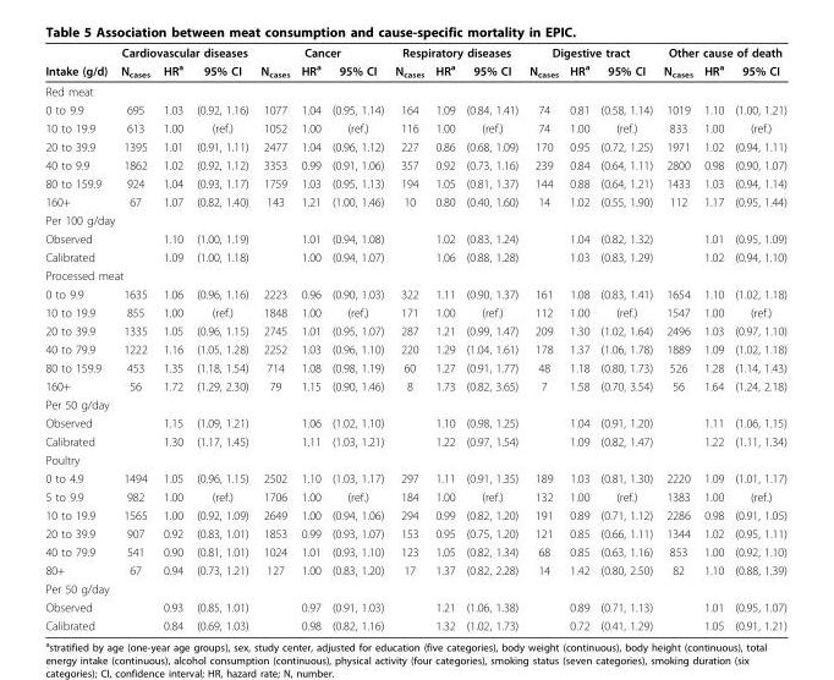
<table><thead><tr><td rowspan="2">Intake (g/d)</td><td colspan="3">Cardiovascular diseases</td><td colspan="3">Cancer</td><td colspan="3">Respiratory diseases</td><td colspan="3">Digestive tract</td><td colspan="3">Other cause of death</td></tr><tr><td>N<sub>cases</sub></td><td>HR<sup>a</sup></td><td>95% CI</td><td>N<sub>cases</sub></td><td>HR<sup>a</sup></td><td>95% CI</td><td>N<sub>cases</sub></td><td>HR<sup>a</sup></td><td>95% CI</td><td>N<sub>cases</sub></td><td>HR<sup>a</sup></td><td>95% CI</td><td>N<sub>cases</sub></td><td>HR<sup>a</sup></td><td>95% CI</td></tr></thead><tbody><tr><td colspan="16">Red meat</td></tr><tr><td>0 to 9.9</td><td>695</td><td>1.03</td><td>(0.92, 1.16)</td><td>1077</td><td>1.04</td><td>(0.95, 1.14)</td><td>164</td><td>1.09</td><td>(0.84, 1.41)</td><td>74</td><td>0.81</td><td>(0.58, 1.14)</td><td>1019</td><td>1.10</td><td>(1.00, 1.21)</td></tr><tr><td>10 to 19.9</td><td>613</td><td>1.00</td><td>(ref.)</td><td>1052</td><td>1.00</td><td>(ref.)</td><td>116</td><td>1.00</td><td>(ref.)</td><td>74</td><td>1.00</td><td>(ref.)</td><td>833</td><td>1.00</td><td>(ref.)</td></tr><tr><td>20 to 39.9</td><td>1395</td><td>1.01</td><td>(0.91, 1.11)</td><td>2477</td><td>1.04</td><td>(0.96, 1.12)</td><td>227</td><td>0.86</td><td>(0.68, 1.09)</td><td>170</td><td>0.95</td><td>(0.72, 1.25)</td><td>1971</td><td>1.02</td><td>(0.94, 1.11)</td></tr><tr><td>40 to 9.9</td><td>1862</td><td>1.02</td><td>(0.92, 1.12)</td><td>3353</td><td>0.99</td><td>(0.91, 1.06)</td><td>357</td><td>0.92</td><td>(0.73, 1.16)</td><td>239</td><td>0.84</td><td>(0.64, 1.11)</td><td>2800</td><td>0.98</td><td>(0.90, 1.07)</td></tr><tr><td>80 to 159.9</td><td>924</td><td>1.04</td><td>(0.93, 1.17)</td><td>1759</td><td>1.03</td><td>(0.95, 1.13)</td><td>194</td><td>1.05</td><td>(0.81, 1.37)</td><td>144</td><td>0.88</td><td>(0.64, 1.21)</td><td>1433</td><td>1.03</td><td>(0.94, 1.14)</td></tr><tr><td>160+</td><td>67</td><td>1.07</td><td>(0.82, 1.40)</td><td>143</td><td>1.21</td><td>(1.00, 1.46)</td><td>10</td><td>0.80</td><td>(0.40, 1.60)</td><td>14</td><td>1.02</td><td>(0.55, 1.90)</td><td>112</td><td>1.17</td><td>(0.95, 1.44)</td></tr><tr><td colspan="16">Per 100 g/day</td></tr><tr><td>Observed</td><td></td><td>1.10</td><td>(1.00, 1.19)</td><td></td><td>1.01</td><td>(0.94, 1.08)</td><td></td><td>1.02</td><td>(0.83, 1.24)</td><td></td><td>1.04</td><td>(0.82, 1.32)</td><td></td><td>1.01</td><td>(0.95, 1.09)</td></tr><tr><td>Calibrated</td><td></td><td>1.09</td><td>(1.00, 1.18)</td><td></td><td>1.00</td><td>(0.94, 1.07)</td><td></td><td>1.06</td><td>(0.88, 1.28)</td><td></td><td>1.03</td><td>(0.83, 1.29)</td><td></td><td>1.02</td><td>(0.94, 1.10)</td></tr><tr><td colspan="16">Processed meat</td></tr><tr><td>0 to 9.9</td><td>1635</td><td>1.06</td><td>(0.96, 1.16)</td><td>2223</td><td>0.96</td><td>(0.90, 1.03)</td><td>322</td><td>1.11</td><td>(0.90, 1.37)</td><td>161</td><td>1.08</td><td>(0.83, 1.41)</td><td>1654</td><td>1.10</td><td>(1.02, 1.18)</td></tr><tr><td>10 to 19.9</td><td>855</td><td>1.00</td><td>(ref.)</td><td>1848</td><td>1.00</td><td>(ref.)</td><td>171</td><td>1.00</td><td>(ref.)</td><td>112</td><td>1.00</td><td>(ref.)</td><td>1547</td><td>1.00</td><td>(ref.)</td></tr><tr><td>20 to 39.9</td><td>1335</td><td>1.05</td><td>(0.96, 1.15)</td><td>2745</td><td>1.01</td><td>(0.95, 1.07)</td><td>287</td><td>1.21</td><td>(0.99, 1.47)</td><td>209</td><td>1.30</td><td>(1.02, 1.64)</td><td>2496</td><td>1.03</td><td>(0.97, 1.10)</td></tr><tr><td>40 to 79.9</td><td>1222</td><td>1.16</td><td>(1.05, 1.28)</td><td>2252</td><td>1.03</td><td>(0.96, 1.10)</td><td>220</td><td>1.29</td><td>(1.04, 1.61)</td><td>178</td><td>1.37</td><td>(1.06, 1.78)</td><td>1889</td><td>1.09</td><td>(1.02, 1.18)</td></tr><tr><td>80 to 159.9</td><td>453</td><td>1.35</td><td>(1.18, 1.54)</td><td>714</td><td>1.08</td><td>(0.98, 1.19)</td><td>60</td><td>1.27</td><td>(0.91, 1.77)</td><td>48</td><td>1.18</td><td>(0.80, 1.73)</td><td>526</td><td>1.28</td><td>(1.14, 1.43)</td></tr><tr><td>160+</td><td>56</td><td>1.72</td><td>(1.29, 2.30)</td><td>79</td><td>1.15</td><td>(0.90, 1.46)</td><td>8</td><td>1.73</td><td>(0.82, 3.65)</td><td>7</td><td>1.58</td><td>(0.70, 3.54)</td><td>56</td><td>1.64</td><td>(1.24, 2.18)</td></tr><tr><td colspan="16">Per 50 g/day</td></tr><tr><td>Observed</td><td></td><td>1.15</td><td>(1.09, 1.21)</td><td></td><td>1.06</td><td>(1.02, 1.10)</td><td></td><td>1.10</td><td>(0.98, 1.25)</td><td></td><td>1.04</td><td>(0.91, 1.20)</td><td></td><td>1.11</td><td>(1.06, 1.15)</td></tr><tr><td>Calibrated</td><td></td><td>1.30</td><td>(1.17, 1.45)</td><td></td><td>1.11</td><td>(1.03, 1.21)</td><td></td><td>1.22</td><td>(0.97, 1.54)</td><td></td><td>1.09</td><td>(0.82, 1.47)</td><td></td><td>1.22</td><td>(1.11, 1.34)</td></tr><tr><td colspan="16">Poultry</td></tr><tr><td>0 to 4.9</td><td>1494</td><td>1.05</td><td>(0.96, 1.15)</td><td>2502</td><td>1.10</td><td>(1.03, 1.17)</td><td>297</td><td>1.11</td><td>(0.91, 1.35)</td><td>189</td><td>1.03</td><td>(0.81, 1.30)</td><td>2220</td><td>1.09</td><td>(1.01, 1.17)</td></tr><tr><td>5 to 9.9</td><td>982</td><td>1.00</td><td>(ref.)</td><td>1706</td><td>1.00</td><td>(ref.)</td><td>184</td><td>1.00</td><td>(ref.)</td><td>132</td><td>1.00</td><td>(ref.)</td><td>1383</td><td>1.00</td><td>(ref.)</td></tr><tr><td>10 to 19.9</td><td>1565</td><td>1.00</td><td>(0.92, 1.09)</td><td>2649</td><td>1.00</td><td>(0.94, 1.06)</td><td>294</td><td>0.99</td><td>(0.82, 1.20)</td><td>191</td><td>0.89</td><td>(0.71, 1.12)</td><td>2286</td><td>0.98</td><td>(0.91, 1.05)</td></tr><tr><td>20 to 39.9</td><td>907</td><td>0.92</td><td>(0.83, 1.01)</td><td>1853</td><td>0.99</td><td>(0.93, 1.07)</td><td>153</td><td>0.95</td><td>(0.75, 1.20)</td><td>121</td><td>0.85</td><td>(0.66, 1.11)</td><td>1344</td><td>1.02</td><td>(0.95, 1.11)</td></tr><tr><td>40 to 79.9</td><td>541</td><td>0.90</td><td>(0.81, 1.01)</td><td>1024</td><td>1.01</td><td>(0.93, 1.10)</td><td>123</td><td>1.05</td><td>(0.82, 1.34)</td><td>68</td><td>0.85</td><td>(0.63, 1.16)</td><td>853</td><td>1.00</td><td>(0.92, 1.10)</td></tr><tr><td>80+</td><td>67</td><td>0.94</td><td>(0.73, 1.21)</td><td>127</td><td>1.00</td><td>(0.83, 1.20)</td><td>17</td><td>1.37</td><td>(0.82, 2.28)</td><td>14</td><td>1.42</td><td>(0.80, 2.50)</td><td>82</td><td>1.10</td><td>(0.88, 1.39)</td></tr><tr><td colspan="16">Per 50 g/day</td></tr><tr><td>Observed</td><td></td><td>0.93</td><td>(0.85, 1.01)</td><td></td><td>0.97</td><td>(0.91, 1.03)</td><td></td><td>1.21</td><td>(1.06, 1.38)</td><td></td><td>0.89</td><td>(0.71, 1.13)</td><td></td><td>1.01</td><td>(0.95, 1.07)</td></tr><tr><td>Calibrated</td><td></td><td>0.84</td><td>(0.69, 1.03)</td><td></td><td>0.98</td><td>(0.82, 1.16)</td><td></td><td>1.32</td><td>(1.02, 1.73)</td><td></td><td>0.72</td><td>(0.41, 1.29)</td><td></td><td>1.05</td><td>(0.91, 1.21)</td></tr></tbody></table>